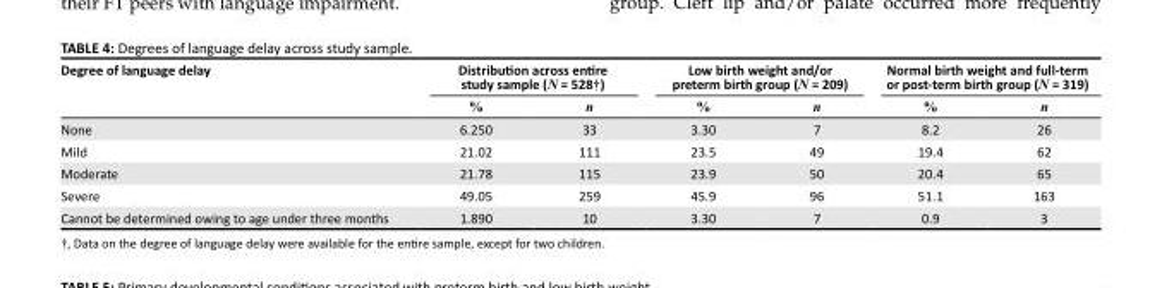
<table><thead><tr><td rowspan="2">Degree of language delay</td><td colspan="2">Distribution across entire study sample (N = 528†)</td><td colspan="2">Low birth weight and/or preterm birth group (N = 209)</td><td colspan="2">Normal birth weight and full-term or post-term birth group (N = 319)</td></tr><tr><td>%</td><td>n</td><td>%</td><td>n</td><td>%</td><td>n</td></tr></thead><tbody><tr><td>None</td><td>6.250</td><td>33</td><td>3.30</td><td>7</td><td>8.2</td><td>26</td></tr><tr><td>Mild</td><td>21.02</td><td>111</td><td>23.5</td><td>49</td><td>19.4</td><td>62</td></tr><tr><td>Moderate</td><td>21.78</td><td>115</td><td>23.9</td><td>50</td><td>20.4</td><td>65</td></tr><tr><td>Severe</td><td>49.05</td><td>259</td><td>45.9</td><td>96</td><td>51.1</td><td>163</td></tr><tr><td>Cannot be determined owing to age under three months</td><td>1.890</td><td>10</td><td>3.30</td><td>7</td><td>0.9</td><td>3</td></tr></tbody></table>